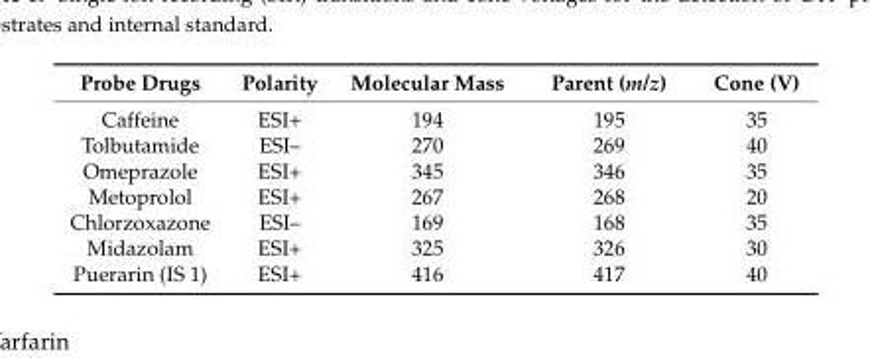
<table><thead><tr><td>Probe Drugs</td><td>Polarity</td><td>Molecular Mass</td><td>Parent (m/z)</td><td>Cone (V)</td></tr></thead><tbody><tr><td>Caffeine</td><td>ESI+</td><td>194</td><td>195</td><td>35</td></tr><tr><td>Tolbutamide</td><td>ESI–</td><td>270</td><td>269</td><td>40</td></tr><tr><td>Omeprazole</td><td>ESI+</td><td>345</td><td>346</td><td>35</td></tr><tr><td>Metoprolol</td><td>ESI+</td><td>267</td><td>268</td><td>20</td></tr><tr><td>Chlorzoxazone</td><td>ESI–</td><td>169</td><td>168</td><td>35</td></tr><tr><td>Midazolam</td><td>ESI+</td><td>325</td><td>326</td><td>30</td></tr><tr><td>Puerarin (IS 1)</td><td>ESI+</td><td>416</td><td>417</td><td>40</td></tr></tbody></table>